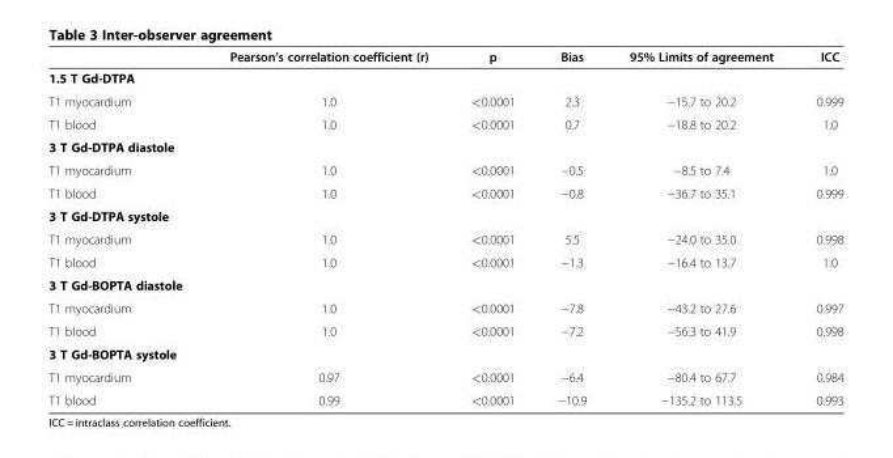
<table><thead><tr><td></td><td>Pearson’s correlation coefficient (r)</td><td>p</td><td>Bias</td><td>95% Limits of agreement</td><td>ICC</td></tr></thead><tbody><tr><td colspan="6">1.5 T Gd-DTPA</td></tr><tr><td>T1 myocardium</td><td>1.0</td><td>&lt;0.0001</td><td>2.3</td><td>−15.7 to 20.2</td><td>0.999</td></tr><tr><td>T1 blood</td><td>1.0</td><td>&lt;0.0001</td><td>0.7</td><td>−18.8 to 20.2</td><td>1.0</td></tr><tr><td colspan="6">3 T Gd-DTPA diastole</td></tr><tr><td>T1 myocardium</td><td>1.0</td><td>&lt;0.0001</td><td>−0.5</td><td>−8.5 to 7.4</td><td>1.0</td></tr><tr><td>T1 blood</td><td>1.0</td><td>&lt;0.0001</td><td>−0.8</td><td>−36.7 to 35.1</td><td>0.999</td></tr><tr><td colspan="6">3 T Gd-DTPA systole</td></tr><tr><td>T1 myocardium</td><td>1.0</td><td>&lt;0.0001</td><td>5.5</td><td>−24.0 to 35.0</td><td>0.998</td></tr><tr><td>T1 blood</td><td>1.0</td><td>&lt;0.0001</td><td>−1.3</td><td>−16.4 to 13.7</td><td>1.0</td></tr><tr><td colspan="6">3 T Gd-BOPTA diastole</td></tr><tr><td>T1 myocardium</td><td>1.0</td><td>&lt;0.0001</td><td>−7.8</td><td>−43.2 to 27.6</td><td>0.997</td></tr><tr><td>T1 blood</td><td>1.0</td><td>&lt;0.0001</td><td>−7.2</td><td>−56.3 to 41.9</td><td>0.998</td></tr><tr><td colspan="6">3 T Gd-BOPTA systole</td></tr><tr><td>T1 myocardium</td><td>0.97</td><td>&lt;0.0001</td><td>−6.4</td><td>−80.4 to 67.7</td><td>0.984</td></tr><tr><td>T1 blood</td><td>0.99</td><td>&lt;0.0001</td><td>−10.9</td><td>−135.2 to 113.5</td><td>0.993</td></tr></tbody></table>